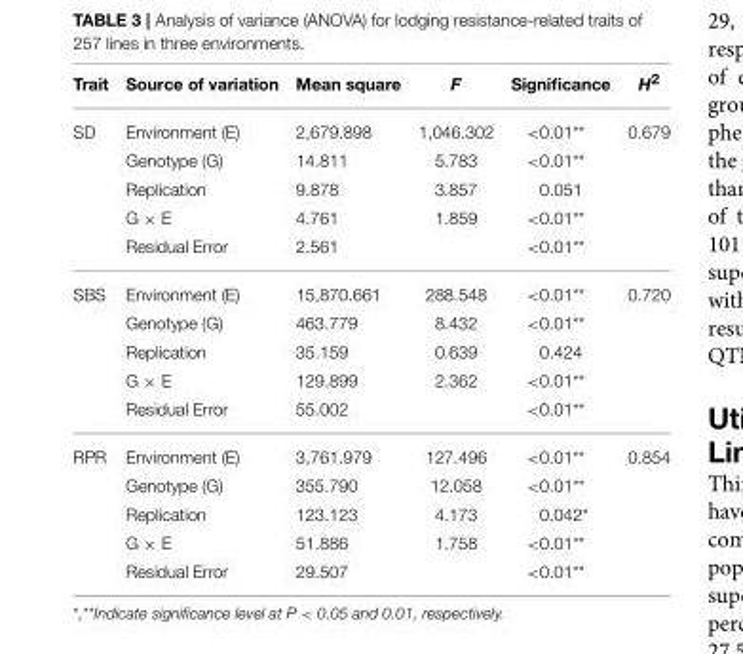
<table><thead><tr><td>Trait</td><td>Source of variation</td><td>Mean square</td><td>F</td><td>Significance</td><td>H<sup>2</sup></td></tr></thead><tbody><tr><td rowspan="5">SD</td><td>Environment (E)</td><td>2,679.898</td><td>1,046.302</td><td>&lt;0.01**</td><td>0.679</td></tr><tr><td>Genotype (G)</td><td>14.811</td><td>5.783</td><td>&lt;0.01**</td><td></td></tr><tr><td>Replication</td><td>9.878</td><td>3.857</td><td>0.051</td><td></td></tr><tr><td>G × E</td><td>4.761</td><td>1.859</td><td>&lt;0.01**</td><td></td></tr><tr><td>Residual Error</td><td>2.561</td><td></td><td>&lt;0.01**</td><td></td></tr><tr><td rowspan="5">SBS</td><td>Environment (E)</td><td>15,870.661</td><td>288.548</td><td>&lt;0.01**</td><td>0.720</td></tr><tr><td>Genotype (G)</td><td>463.779</td><td>8.432</td><td>&lt;0.01**</td><td></td></tr><tr><td>Replication</td><td>35.159</td><td>0.639</td><td>0.424</td><td></td></tr><tr><td>G × E</td><td>129.899</td><td>2.362</td><td>&lt;0.01**</td><td></td></tr><tr><td>Residual Error</td><td>55.002</td><td></td><td>&lt;0.01**</td><td></td></tr><tr><td rowspan="5">RPR</td><td>Environment (E)</td><td>3,761.979</td><td>127.496</td><td>&lt;0.01**</td><td>0.854</td></tr><tr><td>Genotype (G)</td><td>355.790</td><td>12.058</td><td>&lt;0.01**</td><td></td></tr><tr><td>Replication</td><td>123.123</td><td>4.173</td><td>0.042*</td><td></td></tr><tr><td>G × E</td><td>51.886</td><td>1.758</td><td>&lt;0.01**</td><td></td></tr><tr><td>Residual Error</td><td>29.507</td><td></td><td>&lt;0.01**</td><td></td></tr></tbody></table>